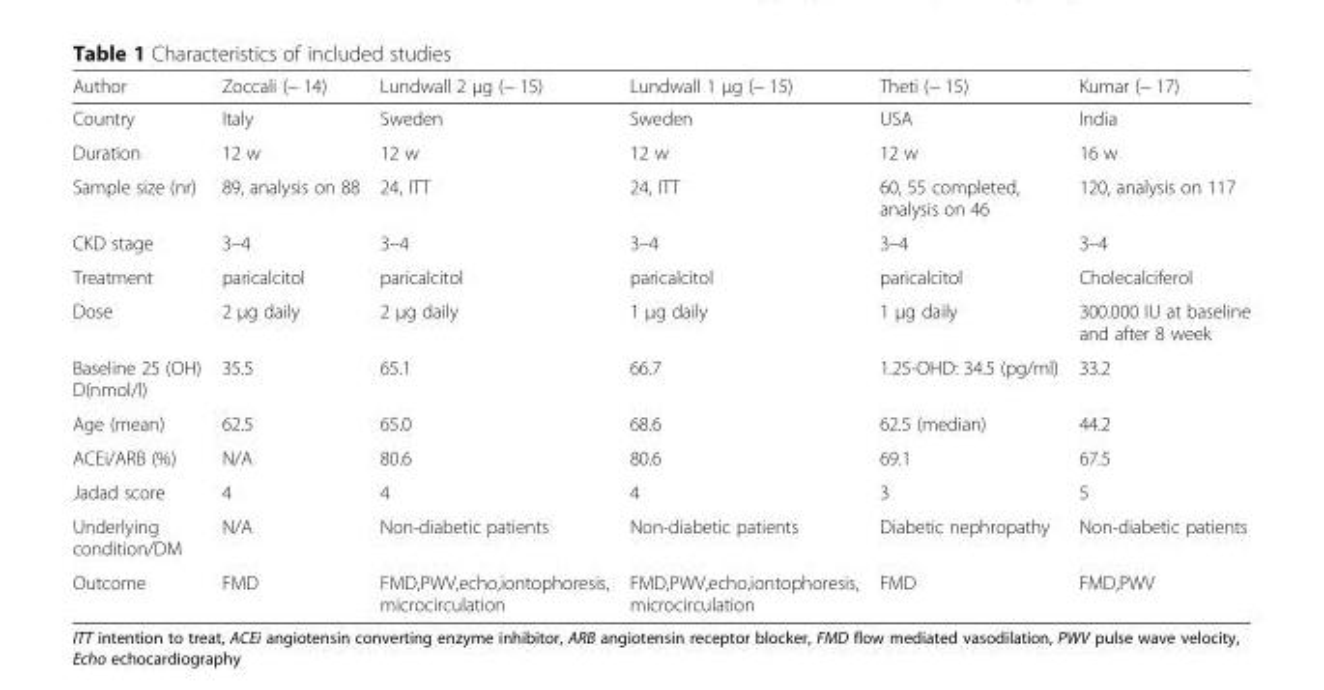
<table><thead><tr><td>Author</td><td>Zoccali (− 14)</td><td>Lundwall 2 μg (− 15)</td><td>Lundwall 1 μg (− 15)</td><td>Theti (− 15)</td><td>Kumar (− 17)</td></tr></thead><tbody><tr><td>Country</td><td>Italy</td><td>Sweden</td><td>Sweden</td><td>USA</td><td>India</td></tr><tr><td>Duration</td><td>12 w</td><td>12 w</td><td>12 w</td><td>12 w</td><td>16 w</td></tr><tr><td>Sample size (nr)</td><td>89, analysis on 88</td><td>24, ITT</td><td>24, ITT</td><td>60, 55 completed, analysis on 46</td><td>120, analysis on 117</td></tr><tr><td>CKD stage</td><td>3–4</td><td>3–4</td><td>3–4</td><td>3–4</td><td>3–4</td></tr><tr><td>Treatment</td><td>paricalcitol</td><td>paricalcitol</td><td>paricalcitol</td><td>paricalcitol</td><td>Cholecalciferol</td></tr><tr><td>Dose</td><td>2 μg daily</td><td>2 μg daily</td><td>1 μg daily</td><td>1 μg daily</td><td>300.000 IU at baseline and after 8 week</td></tr><tr><td>Baseline 25 (OH) D(nmol/l)</td><td>35.5</td><td>65.1</td><td>66.7</td><td>1.25-OHD: 34.5 (pg/ml)</td><td>33.2</td></tr><tr><td>Age (mean)</td><td>62.5</td><td>65.0</td><td>68.6</td><td>62.5 (median)</td><td>44.2</td></tr><tr><td>ACEi/ARB (%)</td><td>N/A</td><td>80.6</td><td>80.6</td><td>69.1</td><td>67.5</td></tr><tr><td>Jadad score</td><td>4</td><td>4</td><td>4</td><td>3</td><td>5</td></tr><tr><td>Underlying condition/DM</td><td>N/A</td><td>Non-diabetic patients</td><td>Non-diabetic patients</td><td>Diabetic nephropathy</td><td>Non-diabetic patients</td></tr><tr><td>Outcome</td><td>FMD</td><td>FMD,PWV,echo,iontophoresis, microcirculation</td><td>FMD,PWV,echo,iontophoresis, microcirculation</td><td>FMD</td><td>FMD,PWV</td></tr></tbody></table>